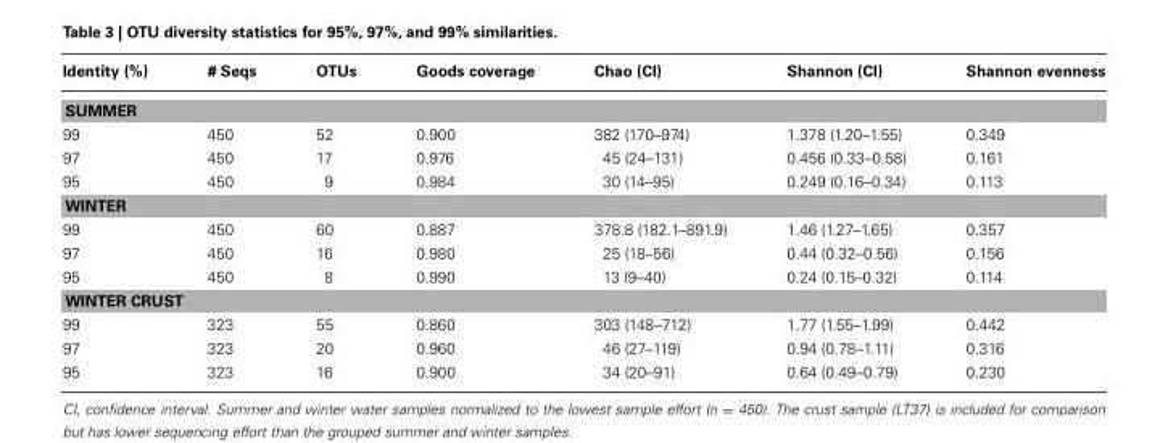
<table><thead><tr><td>Identity (%)</td><td># Seqs</td><td>OTUs</td><td>Goods coverage</td><td>Chao (CI)</td><td>Shannon (CI)</td><td>Shannon evenness</td></tr></thead><tbody><tr><td colspan="7">SUMMER</td></tr><tr><td>99</td><td>450</td><td>52</td><td>0.900</td><td>382 (170–974)</td><td>1.378 (1.20–1.55)</td><td>0.349</td></tr><tr><td>97</td><td>450</td><td>17</td><td>0.976</td><td>45 (24–131)</td><td>0.456 (0.33–0.58)</td><td>0.161</td></tr><tr><td>95</td><td>450</td><td>9</td><td>0.984</td><td>30 (14–95)</td><td>0.249 (0.16–0.34)</td><td>0.113</td></tr><tr><td colspan="7">WINTER</td></tr><tr><td>99</td><td>450</td><td>60</td><td>0.887</td><td>378.8 (182.1–891.9)</td><td>1.46 (1.27–1.65)</td><td>0.357</td></tr><tr><td>97</td><td>450</td><td>16</td><td>0.980</td><td>25 (18–56)</td><td>0.44 (0.32–0.56)</td><td>0.156</td></tr><tr><td>95</td><td>450</td><td>8</td><td>0.990</td><td>13 (9–40)</td><td>0.24 (0.15–0.32)</td><td>0.114</td></tr><tr><td colspan="7">WINTER CRUST</td></tr><tr><td>99</td><td>323</td><td>55</td><td>0.860</td><td>303 (148–712)</td><td>1.77 (1.55–1.99)</td><td>0.442</td></tr><tr><td>97</td><td>323</td><td>20</td><td>0.960</td><td>46 (27–119)</td><td>0.94 (0.78–1.11)</td><td>0.316</td></tr><tr><td>95</td><td>323</td><td>16</td><td>0.900</td><td>34 (20–91)</td><td>0.64 (0.49–0.79)</td><td>0.230</td></tr></tbody></table>